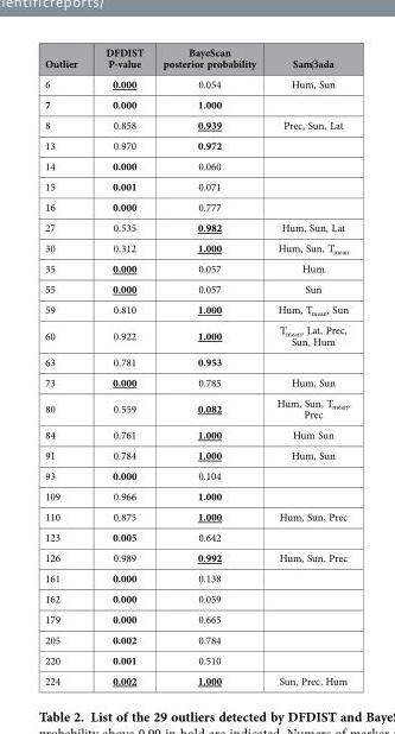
<table><thead><tr><td>Outlier</td><td>DFDIST P-value</td><td>BayeScan posterior probability</td><td>Samβada</td></tr></thead><tbody><tr><td>6</td><td>0.000</td><td>0.054</td><td>Hum, Sun</td></tr><tr><td>7</td><td>0.000</td><td>1.000</td><td></td></tr><tr><td>8</td><td>0.858</td><td>0.939</td><td>Prec, Sun, Lat</td></tr><tr><td>13</td><td>0.970</td><td>0.972</td><td></td></tr><tr><td>14</td><td>0.000</td><td>0.060</td><td></td></tr><tr><td>15</td><td>0.001</td><td>0.071</td><td></td></tr><tr><td>16</td><td>0.000</td><td>0.777</td><td></td></tr><tr><td>27</td><td>0.535</td><td>0.982</td><td>Hum, Sun, Lat</td></tr><tr><td>30</td><td>0.312</td><td>1.000</td><td>Hum, Sun, T<sub>mean</sub></td></tr><tr><td>35</td><td>0.000</td><td>0.057</td><td>Hum</td></tr><tr><td>55</td><td>0.000</td><td>0.057</td><td>Sun</td></tr><tr><td>59</td><td>0.810</td><td>1.000</td><td>Hum, T<sub>mean</sub>, Sun</td></tr><tr><td>60</td><td>0.922</td><td>1.000</td><td>T<sub>mean</sub>, Lat, Prec, Sun, Hum</td></tr><tr><td>63</td><td>0.781</td><td>0.953</td><td></td></tr><tr><td>73</td><td>0.000</td><td>0.785</td><td>Hum, Sun</td></tr><tr><td>80</td><td>0.559</td><td>0.082</td><td>Hum, Sun, T<sub>mean</sub>, Prec</td></tr><tr><td>84</td><td>0.761</td><td>1.000</td><td>Hum Sun</td></tr><tr><td>91</td><td>0.784</td><td>1.000</td><td>Hum, Sun</td></tr><tr><td>93</td><td>0.000</td><td>0.104</td><td></td></tr><tr><td>109</td><td>0.966</td><td>1.000</td><td></td></tr><tr><td>110</td><td>0.875</td><td>1.000</td><td>Hum, Sun, Prec</td></tr><tr><td>123</td><td>0.005</td><td>0.642</td><td></td></tr><tr><td>126</td><td>0.989</td><td>0.992</td><td>Hum, Sun, Prec</td></tr><tr><td>161</td><td>0.000</td><td>0.138</td><td></td></tr><tr><td>162</td><td>0.000</td><td>0.059</td><td></td></tr><tr><td>179</td><td>0.000</td><td>0.665</td><td></td></tr><tr><td>205</td><td>0.002</td><td>0.784</td><td></td></tr><tr><td>220</td><td>0.001</td><td>0.510</td><td></td></tr><tr><td>224</td><td>0.002</td><td>1.000</td><td>Sun, Prec, Hum</td></tr></tbody></table>